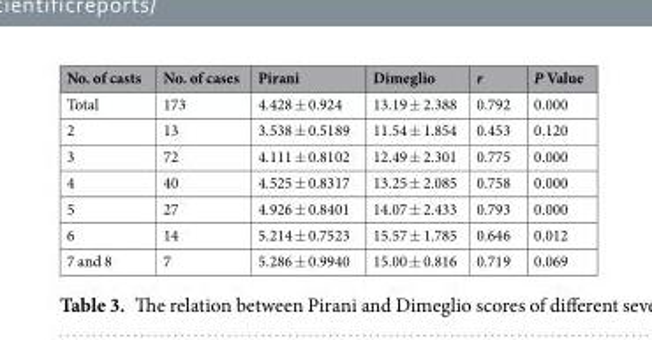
<table><thead><tr><td>No. of casts</td><td>No. of cases</td><td>Pirani</td><td>Dimeglio</td><td>r</td><td>P Value</td></tr></thead><tbody><tr><td>Total</td><td>173</td><td>4.428 ± 0.924</td><td>13.19 ± 2.388</td><td>0.792</td><td>0.000</td></tr><tr><td>2</td><td>13</td><td>3.538 ± 0.5189</td><td>11.54 ± 1.854</td><td>0.453</td><td>0.120</td></tr><tr><td>3</td><td>72</td><td>4.111 ± 0.8102</td><td>12.49 ± 2.301</td><td>0.775</td><td>0.000</td></tr><tr><td>4</td><td>40</td><td>4.525 ± 0.8317</td><td>13.25 ± 2.085</td><td>0.758</td><td>0.000</td></tr><tr><td>5</td><td>27</td><td>4.926 ± 0.8401</td><td>14.07 ± 2.433</td><td>0.793</td><td>0.000</td></tr><tr><td>6</td><td>14</td><td>5.214 ± 0.7523</td><td>15.57 ± 1.785</td><td>0.646</td><td>0.012</td></tr><tr><td>7 and 8</td><td>7</td><td>5.286 ± 0.9940</td><td>15.00 ± 0.816</td><td>0.719</td><td>0.069</td></tr></tbody></table>